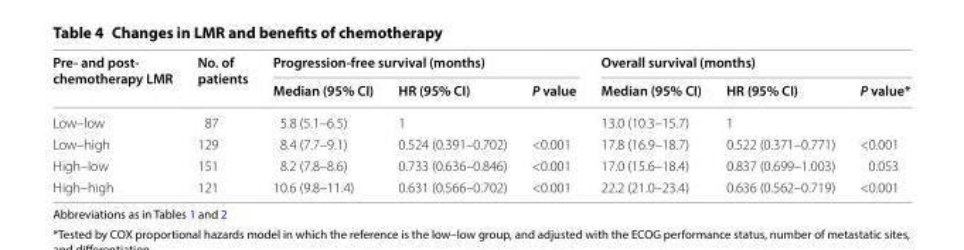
<table><thead><tr><td rowspan="2">Pre‑ and post‑ chemotherapy LMR</td><td rowspan="2">No. of patients</td><td colspan="3">Progression‑free survival (months)</td><td colspan="3">Overall survival (months)</td></tr><tr><td>Median (95% CI)</td><td>HR (95% CI)</td><td>P value</td><td>Median (95% CI)</td><td>HR (95% CI)</td><td>P value*</td></tr></thead><tbody><tr><td>Low–low</td><td>87</td><td>5.8 (5.1–6.5)</td><td>1</td><td></td><td>13.0 (10.3–15.7)</td><td>1</td><td></td></tr><tr><td>Low–high</td><td>129</td><td>8.4 (7.7–9.1)</td><td>0.524 (0.391–0.702)</td><td>&lt;0.001</td><td>17.8 (16.9–18.7)</td><td>0.522 (0.371–0.771)</td><td>&lt;0.001</td></tr><tr><td>High–low</td><td>151</td><td>8.2 (7.8–8.6)</td><td>0.733 (0.636–0.846)</td><td>&lt;0.001</td><td>17.0 (15.6–18.4)</td><td>0.837 (0.699–1.003)</td><td>0.053</td></tr><tr><td>High–high</td><td>121</td><td>10.6 (9.8–11.4)</td><td>0.631 (0.566–0.702)</td><td>&lt;0.001</td><td>22.2 (21.0–23.4)</td><td>0.636 (0.562–0.719)</td><td>&lt;0.001</td></tr></tbody></table>